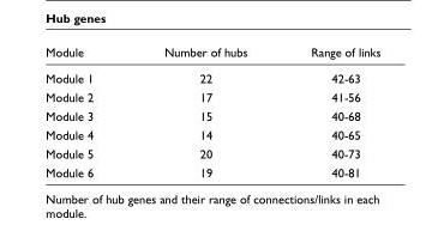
<table><thead><tr><td>Module</td><td>Number of hubs</td><td>Range of links</td></tr></thead><tbody><tr><td>Module 1</td><td>22</td><td>42-63</td></tr><tr><td>Module 2</td><td>17</td><td>41-56</td></tr><tr><td>Module 3</td><td>15</td><td>40-68</td></tr><tr><td>Module 4</td><td>14</td><td>40-65</td></tr><tr><td>Module 5</td><td>20</td><td>40-73</td></tr><tr><td>Module 6</td><td>19</td><td>40-81</td></tr></tbody></table>